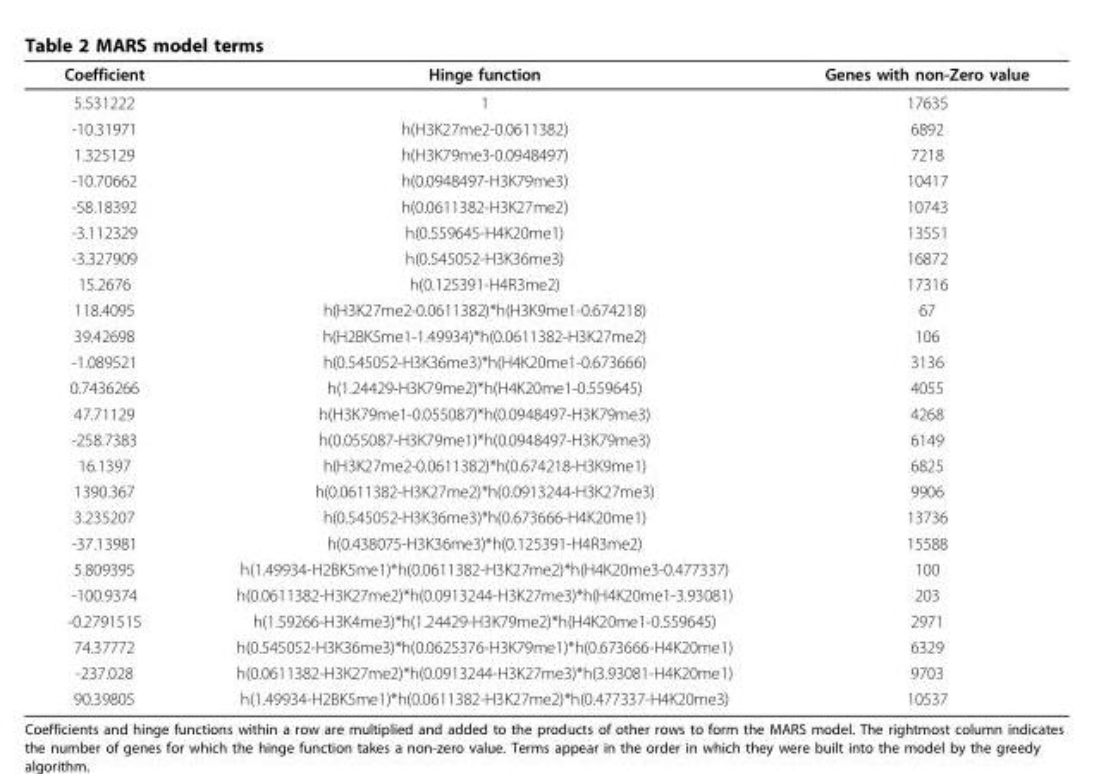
<table><thead><tr><td>Coefficient</td><td>Hinge function</td><td>Genes with non-Zero value</td></tr></thead><tbody><tr><td>5.531222</td><td>1</td><td>17635</td></tr><tr><td>-10.31971</td><td>h(H3K27me2-0.0611382)</td><td>6892</td></tr><tr><td>1.325129</td><td>h(H3K79me3-0.0948497)</td><td>7218</td></tr><tr><td>-10.70662</td><td>h(0.0948497-H3K79me3)</td><td>10417</td></tr><tr><td>-58.18392</td><td>h(0.0611382-H3K27me2)</td><td>10743</td></tr><tr><td>-3.112329</td><td>h(0.559645-H4K20me1)</td><td>13551</td></tr><tr><td>-3.327909</td><td>h(0.545052-H3K36me3)</td><td>16872</td></tr><tr><td>15.2676</td><td>h(0.125391-H4R3me2)</td><td>17316</td></tr><tr><td>118.4095</td><td>h(H3K27me2-0.0611382)*h(H3K9me1-0.674218)</td><td>67</td></tr><tr><td>39.42698</td><td>h(H2BK5me1-1.49934)*h(0.0611382-H3K27me2)</td><td>106</td></tr><tr><td>-1.089521</td><td>h(0.545052-H3K36me3)*h(H4K20me1-0.673666)</td><td>3136</td></tr><tr><td>0.7436266</td><td>h(1.24429-H3K79me2)*h(H4K20me1-0.559645)</td><td>4055</td></tr><tr><td>47.71129</td><td>h(H3K79me1-0.055087)*h(0.0948497-H3K79me3)</td><td>4268</td></tr><tr><td>-258.7383</td><td>h(0.055087-H3K79me1)*h(0.0948497-H3K79me3)</td><td>6149</td></tr><tr><td>16.1397</td><td>h(H3K27me2-0.0611382)*h(0.674218-H3K9me1)</td><td>6825</td></tr><tr><td>1390.367</td><td>h(0.0611382-H3K27me2)*h(0.0913244-H3K27me3)</td><td>9906</td></tr><tr><td>3.235207</td><td>h(0.545052-H3K36me3)*h(0.673666-H4K20me1)</td><td>13736</td></tr><tr><td>-37.13981</td><td>h(0.438075-H3K36me3)*h(0.125391-H4R3me2)</td><td>15588</td></tr><tr><td>5.809395</td><td>h(1.49934-H2BK5me1)*h(0.0611382-H3K27me2)*h(H4K20me3-0.477337)</td><td>100</td></tr><tr><td>-100.9374</td><td>h(0.0611382-H3K27me2)*h(0.0913244-H3K27me3)*h(H4K20me1-3.93081)</td><td>203</td></tr><tr><td>-0.2791515</td><td>h(1.59266-H3K4me3)*h(1.24429-H3K79me2)*h(H4K20me1-0.559645)</td><td>2971</td></tr><tr><td>74.37772</td><td>h(0.545052-H3K36me3)*h(0.0625376-H3K79me1)*h(0.673666-H4K20me1)</td><td>6329</td></tr><tr><td>-237.028</td><td>h(0.0611382-H3K27me2)*h(0.0913244-H3K27me3)*h(3.93081-H4K20me1)</td><td>9703</td></tr><tr><td>90.39805</td><td>h(1.49934-H2BK5me1)*h(0.0611382-H3K27me2)*h(0.477337-H4K20me3)</td><td>10537</td></tr></tbody></table>